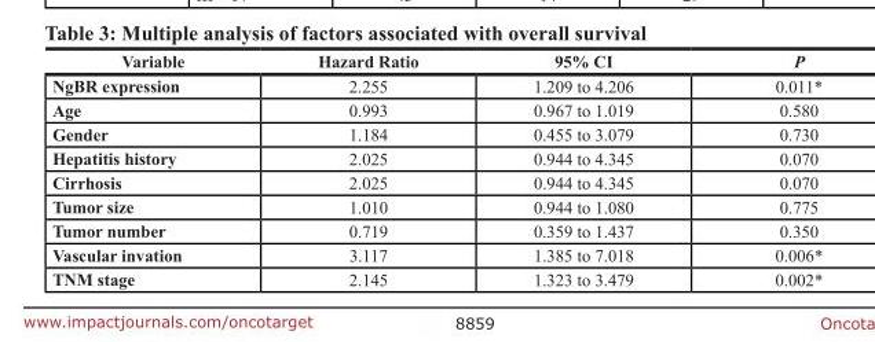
<table><thead><tr><td>Variable</td><td>Hazard Ratio</td><td>95% CI</td><td>P</td></tr></thead><tbody><tr><td>NgBR expression</td><td>2.255</td><td>1.209 to 4.206</td><td>0.011*</td></tr><tr><td>Age</td><td>0.993</td><td>0.967 to 1.019</td><td>0.580</td></tr><tr><td>Gender</td><td>1.184</td><td>0.455 to 3.079</td><td>0.730</td></tr><tr><td>Hepatitis history</td><td>2.025</td><td>0.944 to 4.345</td><td>0.070</td></tr><tr><td>Cirrhosis</td><td>2.025</td><td>0.944 to 4.345</td><td>0.070</td></tr><tr><td>Tumor size</td><td>1.010</td><td>0.944 to 1.080</td><td>0.775</td></tr><tr><td>Tumor number</td><td>0.719</td><td>0.359 to 1.437</td><td>0.350</td></tr><tr><td>Vascular invation</td><td>3.117</td><td>1.385 to 7.018</td><td>0.006*</td></tr><tr><td>TNM stage</td><td>2.145</td><td>1.323 to 3.479</td><td>0.002*</td></tr></tbody></table>